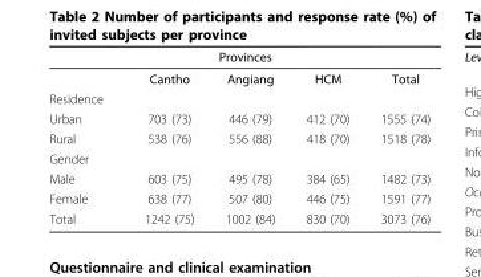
<table><thead><tr><td colspan="5">Provinces</td></tr><tr><td></td><td>Cantho</td><td>Angiang</td><td>HCM</td><td>Total</td></tr></thead><tbody><tr><td colspan="5">Residence</td></tr><tr><td>Urban</td><td>703 (73)</td><td>446 (79)</td><td>412 (70)</td><td>1555 (74)</td></tr><tr><td>Rural</td><td>538 (76)</td><td>556 (88)</td><td>418 (70)</td><td>1518 (78)</td></tr><tr><td colspan="5">Gender</td></tr><tr><td>Male</td><td>603 (75)</td><td>495 (78)</td><td>384 (65)</td><td>1482 (73)</td></tr><tr><td>Female</td><td>638 (77)</td><td>507 (80)</td><td>446 (75)</td><td>1591 (77)</td></tr><tr><td>Total</td><td>1242 (75)</td><td>1002 (84)</td><td>830 (70)</td><td>3073 (76)</td></tr></tbody></table>